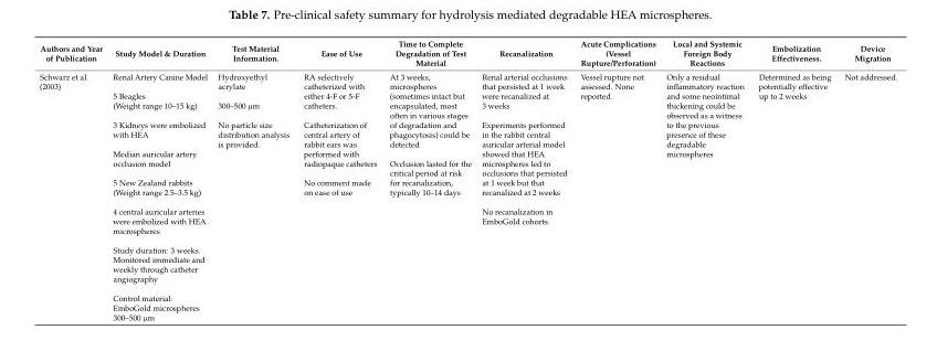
<table><thead><tr><td>Authors and Year of Publication</td><td>Study Model &amp; Duration</td><td>Test Material Information.</td><td>Ease of Use</td><td>Time to Complete Degradation of Test Material</td><td>Recanalization</td><td>Acute Complications (Vessel Rupture/Perforation)</td><td>Local and Systemic Foreign Body Reactions</td><td>Embolization Effectiveness.</td><td>Device Migration</td></tr></thead><tbody><tr><td>Schwarz et al. (2003)</td><td>Renal Artery Canine Model 5 Beagles (Weight range 10–15 kg) 3 Kidneys were embolized with HEA Median auricular artery occlusion model 5 New Zealand rabbits (Weight range 2.5–3.5 kg) 4 central auricular arteries were embolized with HEA microspheres Study duration: 3 weeks. Monitored immediate and weekly through catheter angiography Control material: EmboGold microspheres 300–500 µm</td><td>Hydroxyethyl acrylate 300–500 µm No particle size distribution analysis is provided.</td><td>RA selectively catheterized with either 4-F or 5-F catheters. Catheterization of central artery of rabbit ears was performed with radiopaque catheters No comment made on ease of use</td><td>At 3 weeks, microspheres (sometimes intact but encapsulated, most often in various stages of degradation and phagocytosis) could be detected Occlusion lasted for the critical period at risk for recanalization, typically 10–14 days</td><td>Renal arterial occlusions that persisted at 1 week were recanalized at 3 weeks Experiments performed in the rabbit central auricular arterial model showed that HEA microspheres led to occlusions that persisted at 1 week but that recanalized at 2 weeks No recanalization in EmboGold cohorts.</td><td>Vessel rupture not assessed. None reported.</td><td>Only a residual inflammatory reaction and some neointimal thickening could be observed as a witness to the previous presence of these degradable microspheres</td><td>Determined as being potentially effective up to 2 weeks</td><td>Not addressed.</td></tr></tbody></table>